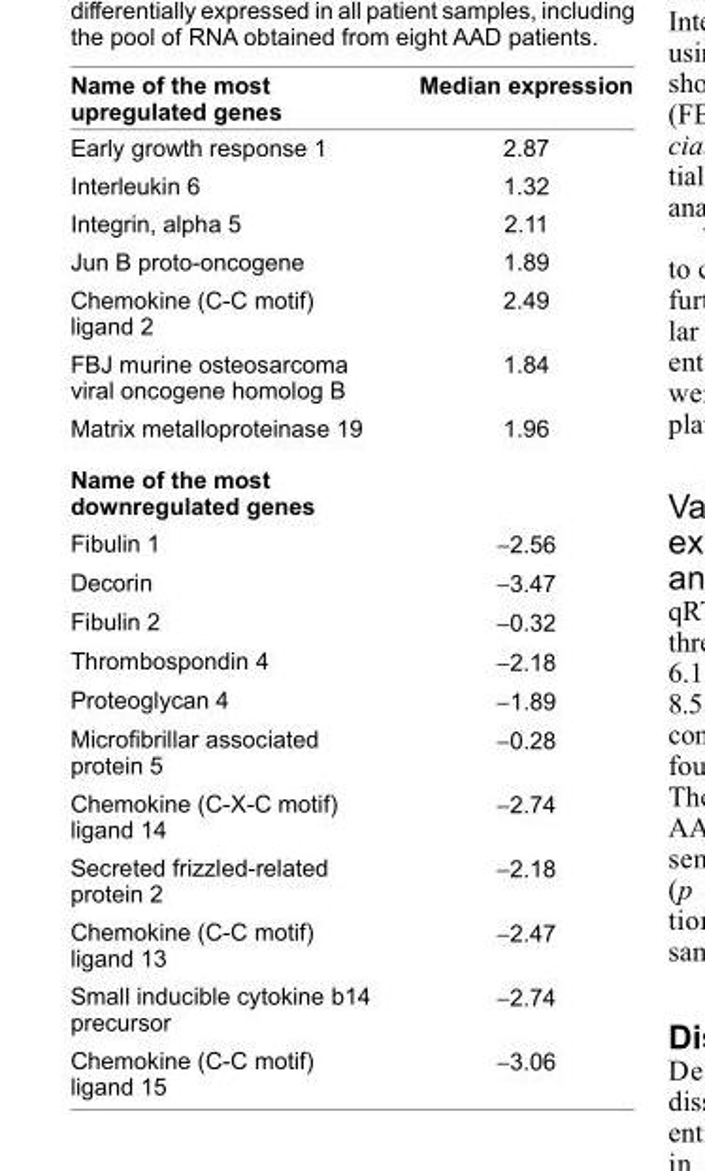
<table><thead><tr><td>Name of the most upregulated genes</td><td>Median expression</td></tr></thead><tbody><tr><td>Early growth response 1</td><td>2.87</td></tr><tr><td>Interleukin 6</td><td>1.32</td></tr><tr><td>Integrin, alpha 5</td><td>2.11</td></tr><tr><td>Jun B proto-oncogene</td><td>1.89</td></tr><tr><td>Chemokine (C-C motif) ligand 2</td><td>2.49</td></tr><tr><td>FBJ murine osteosarcoma viral oncogene homolog B</td><td>1.84</td></tr><tr><td>Matrix metalloproteinase 19</td><td>1.96</td></tr><tr><td colspan="2">Name of the most downregulated genes</td></tr><tr><td>Fibulin 1</td><td>−2.56</td></tr><tr><td>Decorin</td><td>−3.47</td></tr><tr><td>Fibulin 2</td><td>−0.32</td></tr><tr><td>Thrombospondin 4</td><td>−2.18</td></tr><tr><td>Proteoglycan 4</td><td>−1.89</td></tr><tr><td>Microfi brillar associated protein 5</td><td>−0.28</td></tr><tr><td>Chemokine (C-X-C motif) ligand 14</td><td>−2.74</td></tr><tr><td>Secreted frizzled-related protein 2</td><td>−2.18</td></tr><tr><td>Chemokine (C-C motif) ligand 13</td><td>−2.47</td></tr><tr><td>Small inducible cytokine b14 precursor</td><td>−2.74</td></tr><tr><td>Chemokine (C-C motif) ligand 15</td><td>−3.06</td></tr></tbody></table>